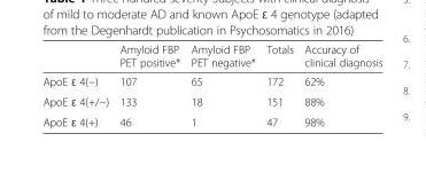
<table><thead><tr><td></td><td>Amyloid FBP PET positive*</td><td>Amyloid FBP PET negative*</td><td>Totals</td><td>Accuracy of clinical diagnosis</td></tr></thead><tbody><tr><td>ApoE ɛ 4(−)</td><td>107</td><td>65</td><td>172</td><td>62%</td></tr><tr><td>ApoE ɛ 4(+/−)</td><td>133</td><td>18</td><td>151</td><td>88%</td></tr><tr><td>ApoE ɛ 4(+)</td><td>46</td><td>1</td><td>47</td><td>98%</td></tr></tbody></table>